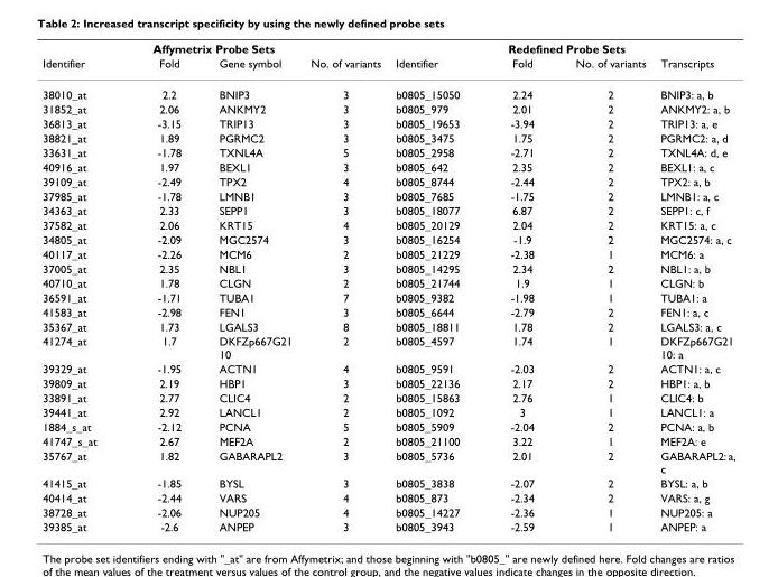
<table><thead><tr><td rowspan="2">Identifier</td><td colspan="2">Affymetrix Probe Sets</td><td rowspan="2">No. of variants</td><td rowspan="2">Identifier</td><td colspan="2">Redefined Probe Sets</td><td rowspan="2">Transcripts</td></tr><tr><td>Fold</td><td>Gene symbol</td><td>Fold</td><td>No. of variants</td></tr></thead><tbody><tr><td>38010_at</td><td>2.2</td><td>BNIP3</td><td>3</td><td>b0805_15050</td><td>2.24</td><td>2</td><td>BNIP3: a, b</td></tr><tr><td>31852_at</td><td>2.06</td><td>ANKMY2</td><td>3</td><td>b0805_979</td><td>2.01</td><td>2</td><td>ANKMY2: a, b</td></tr><tr><td>36813_at</td><td>-3.15</td><td>TRIP13</td><td>3</td><td>b0805_19653</td><td>-3.94</td><td>2</td><td>TRIP13: a, e</td></tr><tr><td>38821_at</td><td>1.89</td><td>PGRMC2</td><td>3</td><td>b0805_3475</td><td>1.75</td><td>2</td><td>PGRMC2: a, d</td></tr><tr><td>33631_at</td><td>-1.78</td><td>TXNL4A</td><td>5</td><td>b0805_2958</td><td>-2.71</td><td>2</td><td>TXNL4A: d, e</td></tr><tr><td>40916_at</td><td>1.97</td><td>BEXL1</td><td>3</td><td>b0805_642</td><td>2.35</td><td>2</td><td>BEXL1: a, c</td></tr><tr><td>39109_at</td><td>-2.49</td><td>TPX2</td><td>4</td><td>b0805_8744</td><td>-2.44</td><td>2</td><td>TPX2: a, b</td></tr><tr><td>37985_at</td><td>-1.78</td><td>LMNB1</td><td>3</td><td>b0805_7685</td><td>-1.75</td><td>2</td><td>LMNB1: a, c</td></tr><tr><td>34363_at</td><td>2.33</td><td>SEPP1</td><td>3</td><td>b0805_18077</td><td>6.87</td><td>2</td><td>SEPP1: c, f</td></tr><tr><td>37582_at</td><td>2.06</td><td>KRT15</td><td>4</td><td>b0805_20129</td><td>2.04</td><td>2</td><td>KRT15: a, c</td></tr><tr><td>34805_at</td><td>-2.09</td><td>MGC2574</td><td>3</td><td>b0805_16254</td><td>-1.9</td><td>2</td><td>MGC2574: a, c</td></tr><tr><td>40117_at</td><td>-2.26</td><td>MCM6</td><td>2</td><td>b0805_21229</td><td>-2.38</td><td>1</td><td>MCM6: a</td></tr><tr><td>37005_at</td><td>2.35</td><td>NBL1</td><td>3</td><td>b0805_14295</td><td>2.34</td><td>2</td><td>NBL1: a, b</td></tr><tr><td>40710_at</td><td>1.78</td><td>CLGN</td><td>2</td><td>b0805_21744</td><td>1.9</td><td>1</td><td>CLGN: b</td></tr><tr><td>36591_at</td><td>-1.71</td><td>TUBA1</td><td>7</td><td>b0805_9382</td><td>-1.98</td><td>1</td><td>TUBA1: a</td></tr><tr><td>41583_at</td><td>-2.98</td><td>FEN1</td><td>3</td><td>b0805_6644</td><td>-2.79</td><td>2</td><td>FEN1: a, c</td></tr><tr><td>35367_at</td><td>1.73</td><td>LGALS3</td><td>8</td><td>b0805_18811</td><td>1.78</td><td>2</td><td>LGALS3: a, c</td></tr><tr><td>41274_at</td><td>1.7</td><td>DKFZp667G21 10</td><td>2</td><td>b0805_4597</td><td>1.74</td><td>1</td><td>DKFZp667G21 10: a</td></tr><tr><td>39329_at</td><td>-1.95</td><td>ACTN1</td><td>4</td><td>b0805_9591</td><td>-2.03</td><td>2</td><td>ACTN1: a, c</td></tr><tr><td>39809_at</td><td>2.19</td><td>HBP1</td><td>3</td><td>b0805_22136</td><td>2.17</td><td>2</td><td>HBP1: a, b</td></tr><tr><td>33891_at</td><td>2.77</td><td>CLIC4</td><td>2</td><td>b0805_15863</td><td>2.76</td><td>1</td><td>CLIC4: b</td></tr><tr><td>39441_at</td><td>2.92</td><td>LANCL1</td><td>2</td><td>b0805_1092</td><td>3</td><td>1</td><td>LANCL1: a</td></tr><tr><td>1884_s_at</td><td>-2.12</td><td>PCNA</td><td>5</td><td>b0805_5909</td><td>-2.04</td><td>2</td><td>PCNA: a, b</td></tr><tr><td>41747_s_at</td><td>2.67</td><td>MEF2A</td><td>2</td><td>b0805_21100</td><td>3.22</td><td>1</td><td>MEF2A: e</td></tr><tr><td>35767_at</td><td>1.82</td><td>GABARAPL2</td><td>3</td><td>b0805_5736</td><td>2.01</td><td>2</td><td>GABARAPL2: a, c</td></tr><tr><td>41415_at</td><td>-1.85</td><td>BYSL</td><td>3</td><td>b0805_3838</td><td>-2.07</td><td>2</td><td>BYSL: a, b</td></tr><tr><td>40414_at</td><td>-2.44</td><td>VARS</td><td>4</td><td>b0805_873</td><td>-2.34</td><td>2</td><td>VARS: a, g</td></tr><tr><td>38728_at</td><td>-2.06</td><td>NUP205</td><td>4</td><td>b0805_14227</td><td>-2.36</td><td>1</td><td>NUP205: a</td></tr><tr><td>39385_at</td><td>-2.6</td><td>ANPEP</td><td>3</td><td>b0805_3943</td><td>-2.59</td><td>1</td><td>ANPEP: a</td></tr></tbody></table>